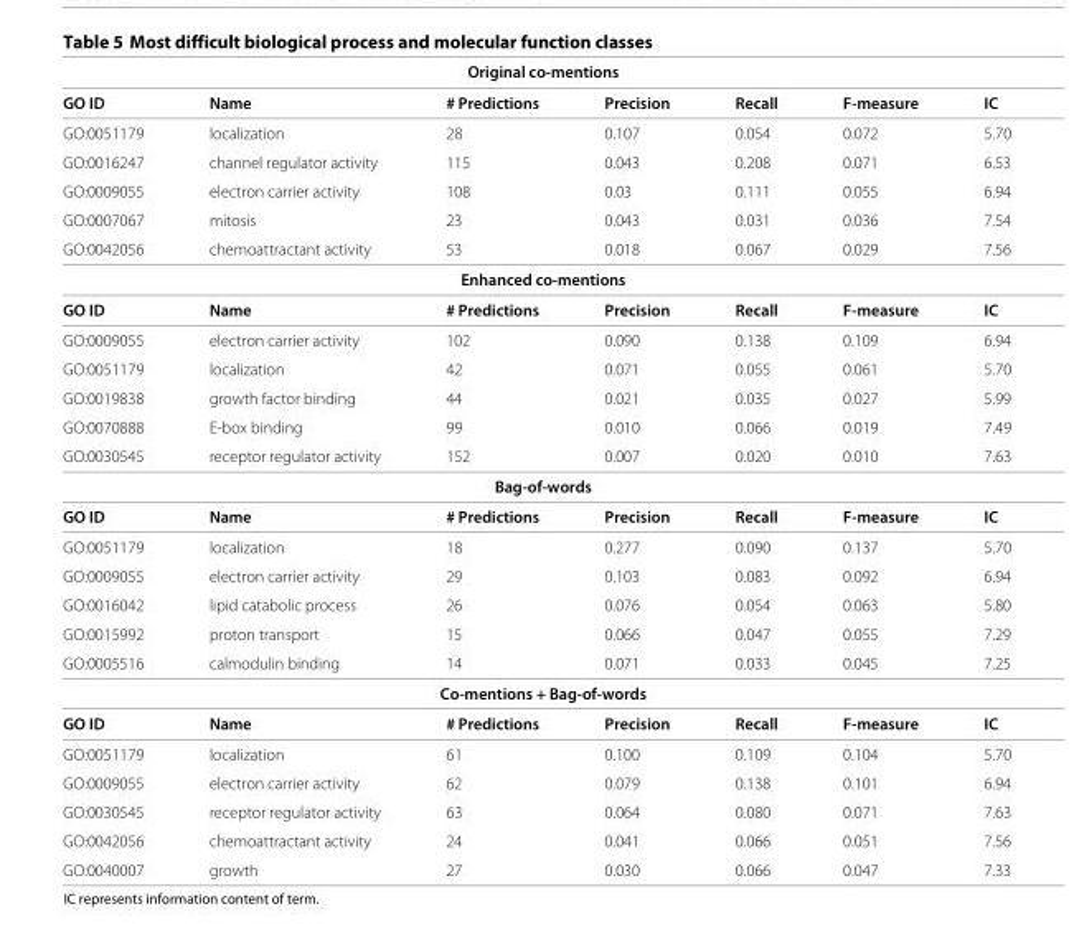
<table><thead><tr><td colspan="7">Original co-mentions</td></tr><tr><td>GO ID</td><td>Name</td><td># Predictions</td><td>Precision</td><td>Recall</td><td>F-measure</td><td>IC</td></tr></thead><tbody><tr><td>GO:0051179</td><td>localization</td><td>28</td><td>0.107</td><td>0.054</td><td>0.072</td><td>5.70</td></tr><tr><td>GO:0016247</td><td>channel regulator activity</td><td>115</td><td>0.043</td><td>0.208</td><td>0.071</td><td>6.53</td></tr><tr><td>GO:0009055</td><td>electron carrier activity</td><td>108</td><td>0.03</td><td>0.111</td><td>0.055</td><td>6.94</td></tr><tr><td>GO:0007067</td><td>mitosis</td><td>23</td><td>0.043</td><td>0.031</td><td>0.036</td><td>7.54</td></tr><tr><td>GO:0042056</td><td>chemoattractant activity</td><td>53</td><td>0.018</td><td>0.067</td><td>0.029</td><td>7.56</td></tr><tr><td colspan="7">Enhanced co-mentions</td></tr><tr><td>GO ID</td><td>Name</td><td># Predictions</td><td>Precision</td><td>Recall</td><td>F-measure</td><td>IC</td></tr><tr><td>GO:0009055</td><td>electron carrier activity</td><td>102</td><td>0.090</td><td>0.138</td><td>0.109</td><td>6.94</td></tr><tr><td>GO:0051179</td><td>localization</td><td>42</td><td>0.071</td><td>0.055</td><td>0.061</td><td>5.70</td></tr><tr><td>GO:0019838</td><td>growth factor binding</td><td>44</td><td>0.021</td><td>0.035</td><td>0.027</td><td>5.99</td></tr><tr><td>GO:0070888</td><td>E-box binding</td><td>99</td><td>0.010</td><td>0.066</td><td>0.019</td><td>7.49</td></tr><tr><td>GO:0030545</td><td>receptor regulator activity</td><td>152</td><td>0.007</td><td>0.020</td><td>0.010</td><td>7.63</td></tr><tr><td colspan="7">Bag-of-words</td></tr><tr><td>GO ID</td><td>Name</td><td># Predictions</td><td>Precision</td><td>Recall</td><td>F-measure</td><td>IC</td></tr><tr><td>GO:0051179</td><td>localization</td><td>18</td><td>0.277</td><td>0.090</td><td>0.137</td><td>5.70</td></tr><tr><td>GO:0009055</td><td>electron carrier activity</td><td>29</td><td>0.103</td><td>0.083</td><td>0.092</td><td>6.94</td></tr><tr><td>GO:0016042</td><td>lipid catabolic process</td><td>26</td><td>0.076</td><td>0.054</td><td>0.063</td><td>5.80</td></tr><tr><td>GO:0015992</td><td>proton transport</td><td>15</td><td>0.066</td><td>0.047</td><td>0.055</td><td>7.29</td></tr><tr><td>GO:0005516</td><td>calmodulin binding</td><td>14</td><td>0.071</td><td>0.033</td><td>0.045</td><td>7.25</td></tr><tr><td colspan="7">Co-mentions + Bag-of-words</td></tr><tr><td>GO ID</td><td>Name</td><td># Predictions</td><td>Precision</td><td>Recall</td><td>F-measure</td><td>IC</td></tr><tr><td>GO:0051179</td><td>localization</td><td>61</td><td>0.100</td><td>0.109</td><td>0.104</td><td>5.70</td></tr><tr><td>GO:0009055</td><td>electron carrier activity</td><td>62</td><td>0.079</td><td>0.138</td><td>0.101</td><td>6.94</td></tr><tr><td>GO:0030545</td><td>receptor regulator activity</td><td>63</td><td>0.064</td><td>0.080</td><td>0.071</td><td>7.63</td></tr><tr><td>GO:0042056</td><td>chemoattractant activity</td><td>24</td><td>0.041</td><td>0.066</td><td>0.051</td><td>7.56</td></tr><tr><td>GO:0040007</td><td>growth</td><td>27</td><td>0.030</td><td>0.066</td><td>0.047</td><td>7.33</td></tr></tbody></table>